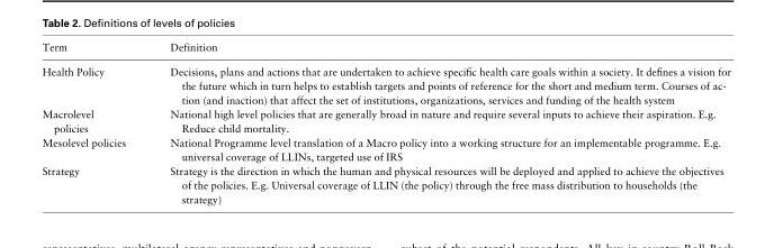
<table><thead><tr><td>Term</td><td>Definition</td></tr></thead><tbody><tr><td>Health Policy</td><td>Decisions, plans and actions that are undertaken to achieve specific health care goals within a society. It defines a vision for the future which in turn helps to establish targets and points of reference for the short and medium term. Courses of ac- tion (and inaction) that affect the set of institutions, organizations, services and funding of the health system</td></tr><tr><td>Macrolevel policies</td><td>National high level policies that are generally broad in nature and require several inputs to achieve their aspiration. E.g. Reduce child mortality.</td></tr><tr><td>Mesolevel policies</td><td>National Programme level translation of a Macro policy into a working structure for an implementable programme. E.g. universal coverage of LLINs, targeted use of IRS</td></tr><tr><td>Strategy</td><td>Strategy is the direction in which the human and physical resources will be deployed and applied to achieve the objectives of the policies. E.g. Universal coverage of LLIN (the policy) through the free mass distribution to households (the strategy)</td></tr></tbody></table>